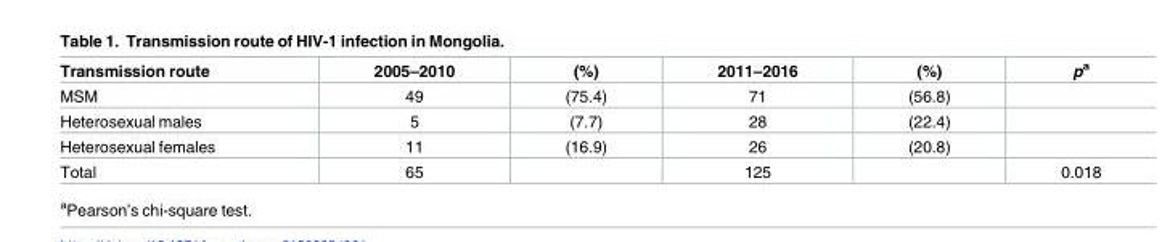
<table><thead><tr><td>Transmission route</td><td>2005–2010</td><td>(%)</td><td>2011–2016</td><td>(%)</td><td>p<sup>a</sup></td></tr></thead><tbody><tr><td>MSM</td><td>49</td><td>(75.4)</td><td>71</td><td>(56.8)</td><td></td></tr><tr><td>Heterosexual males</td><td>5</td><td>(7.7)</td><td>28</td><td>(22.4)</td><td></td></tr><tr><td>Heterosexual females</td><td>11</td><td>(16.9)</td><td>26</td><td>(20.8)</td><td></td></tr><tr><td>Total</td><td>65</td><td></td><td>125</td><td></td><td>0.018</td></tr></tbody></table>